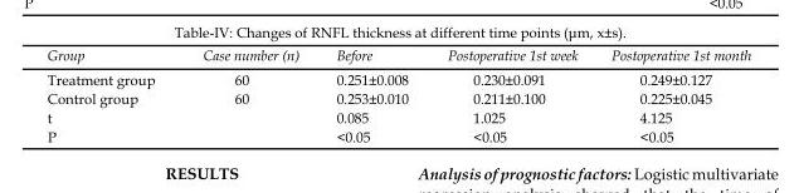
<table><thead><tr><td>Group</td><td>Case number (n)</td><td>Before</td><td>Postoperative 1<sup>st</sup> week</td><td>Postoperative 1<sup>st</sup> month</td></tr></thead><tbody><tr><td>Treatment group</td><td>60</td><td>0.251±0.008</td><td>0.230±0.091</td><td>0.249±0.127</td></tr><tr><td>Control group</td><td>60</td><td>0.253±0.010</td><td>0.211±0.100</td><td>0.225±0.045</td></tr><tr><td>t</td><td></td><td>0.085</td><td>1.025</td><td>4.125</td></tr><tr><td>P</td><td></td><td>&lt;0.05</td><td>&lt;0.05</td><td>&lt;0.05</td></tr></tbody></table>